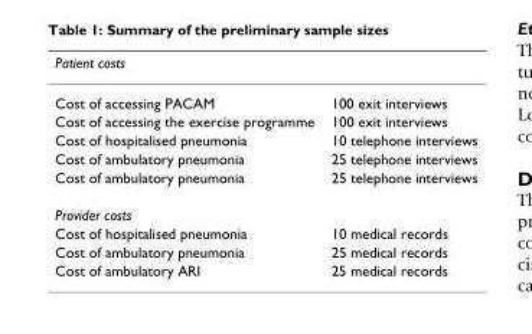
<table><thead><tr><td>Patient costs</td><td></td></tr></thead><tbody><tr><td>Cost of accessing PACAM</td><td>100 exit interviews</td></tr><tr><td>Cost of accessing the exercise programme</td><td>100 exit interviews</td></tr><tr><td>Cost of hospitalised pneumonia</td><td>10 telephone interviews</td></tr><tr><td>Cost of ambulatory pneumonia</td><td>25 telephone interviews</td></tr><tr><td>Cost of ambulatory pneumonia</td><td>25 telephone interviews</td></tr><tr><td colspan="2">Provider costs</td></tr><tr><td>Cost of hospitalised pneumonia</td><td>10 medical records</td></tr><tr><td>Cost of ambulatory pneumonia</td><td>25 medical records</td></tr><tr><td>Cost of ambulatory ARI</td><td>25 medical records</td></tr></tbody></table>